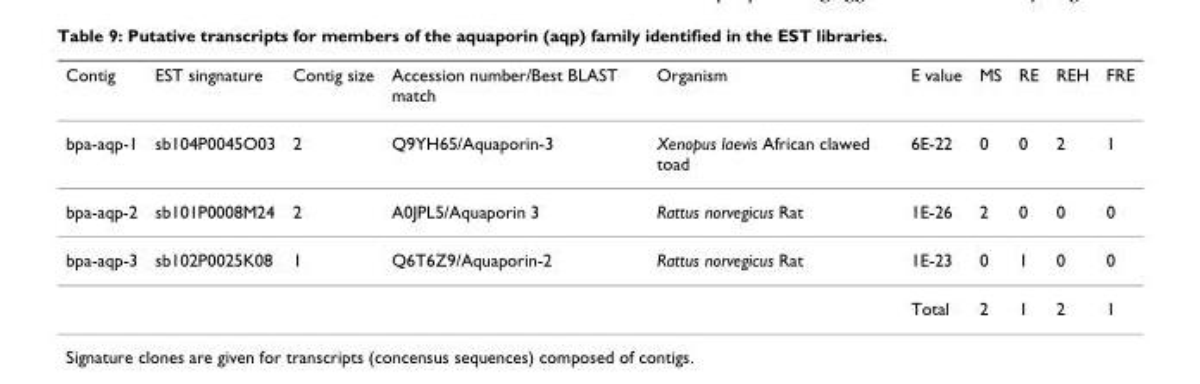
<table><thead><tr><td>Contig</td><td>EST singnature</td><td>Contig size</td><td>Accession number/Best BLAST match</td><td>Organism</td><td>E value</td><td>MS</td><td>RE</td><td>REH</td><td>FRE</td></tr></thead><tbody><tr><td>bpa-aqp-1</td><td>sb104P0045O03</td><td>2</td><td>Q9YH65/Aquaporin-3</td><td>Xenopus laevis African clawed toad</td><td>6E-22</td><td>0</td><td>0</td><td>2</td><td>1</td></tr><tr><td>bpa-aqp-2</td><td>sb101P0008M24</td><td>2</td><td>A0JPL5/Aquaporin 3</td><td>Rattus norvegicus Rat</td><td>1E-26</td><td>2</td><td>0</td><td>0</td><td>0</td></tr><tr><td rowspan="2">bpa-aqp-3</td><td>sb102P0025K08</td><td>1</td><td>Q6T6Z9/Aquaporin-2</td><td>Rattus norvegicus Rat</td><td>1E-23</td><td>0</td><td>1</td><td>0</td><td>0</td></tr><tr><td></td><td></td><td></td><td></td><td>Total</td><td>2</td><td>1</td><td>2</td><td>1</td></tr></tbody></table>